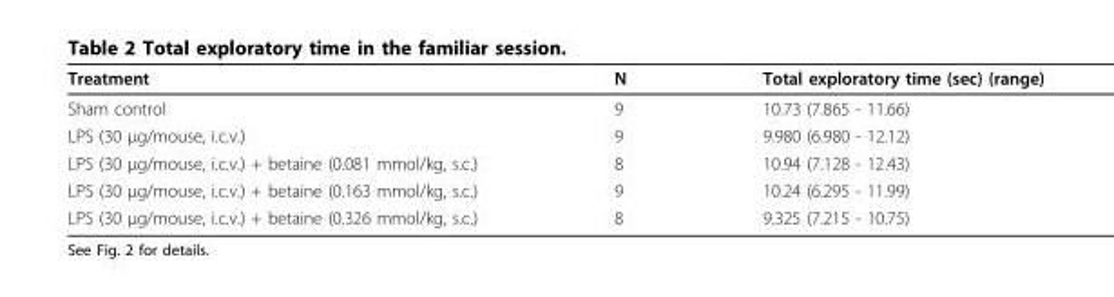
<table><thead><tr><td>Treatment</td><td>N</td><td>Total exploratory time (sec) (range)</td></tr></thead><tbody><tr><td>Sham control</td><td>9</td><td>10.73 (7.865 - 11.66)</td></tr><tr><td>LPS (30 μg/mouse, i.c.v.)</td><td>9</td><td>9.980 (6.980 - 12.12)</td></tr><tr><td>LPS (30 μg/mouse, i.c.v.) + betaine (0.081 mmol/kg, s.c.)</td><td>8</td><td>10.94 (7.128 - 12.43)</td></tr><tr><td>LPS (30 μg/mouse, i.c.v.) + betaine (0.163 mmol/kg, s.c.)</td><td>9</td><td>10.24 (6.295 - 11.99)</td></tr><tr><td>LPS (30 μg/mouse, i.c.v.) + betaine (0.326 mmol/kg, s.c.)</td><td>8</td><td>9.325 (7.215 - 10.75)</td></tr></tbody></table>